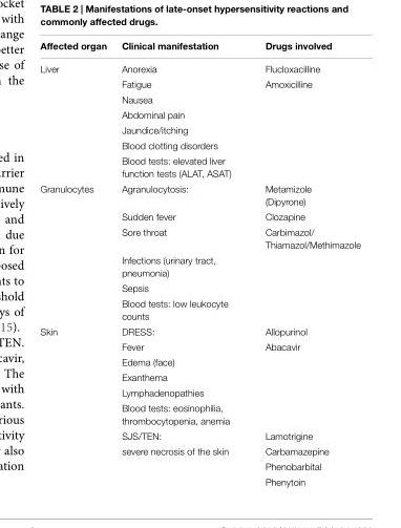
<table><thead><tr><td>Affected organ</td><td>Clinical manifestation</td><td>Drugs involved</td></tr></thead><tbody><tr><td rowspan="7">Liver</td><td>Anorexia</td><td>Flucloxacilline</td></tr><tr><td>Fatigue</td><td>Amoxicilline</td></tr><tr><td>Nausea</td><td></td></tr><tr><td>Abdominal pain</td><td></td></tr><tr><td>Jaundice/itching</td><td></td></tr><tr><td>Blood clotting disorders</td><td></td></tr><tr><td>Blood tests: elevated liver function tests (ALAT, ASAT)</td><td></td></tr><tr><td rowspan="6">Granulocytes</td><td>Agranulocytosis:</td><td>Metamizole (Dipyrone)</td></tr><tr><td>Sudden fever</td><td>Clozapine</td></tr><tr><td>Sore throat</td><td>Carbimazol/ Thiamazol/Methimazole</td></tr><tr><td>Infections (urinary tract, pneumonia)</td><td></td></tr><tr><td>Sepsis</td><td></td></tr><tr><td>Blood tests: low leukocyte counts</td><td></td></tr><tr><td rowspan="10">Skin</td><td>DRESS:</td><td>Allopurinol</td></tr><tr><td>Fever</td><td>Abacavir</td></tr><tr><td>Edema (face)</td><td></td></tr><tr><td>Exanthema</td><td></td></tr><tr><td>Lymphadenopathies</td><td></td></tr><tr><td>Blood tests: eosinophilia, thrombocytopenia, anemia</td><td></td></tr><tr><td>SJS/TEN:</td><td>Lamotrigine</td></tr><tr><td>severe necrosis of the skin</td><td>Carbamazepine</td></tr><tr><td></td><td>Phenobarbital</td></tr><tr><td></td><td>Phenytoin</td></tr></tbody></table>